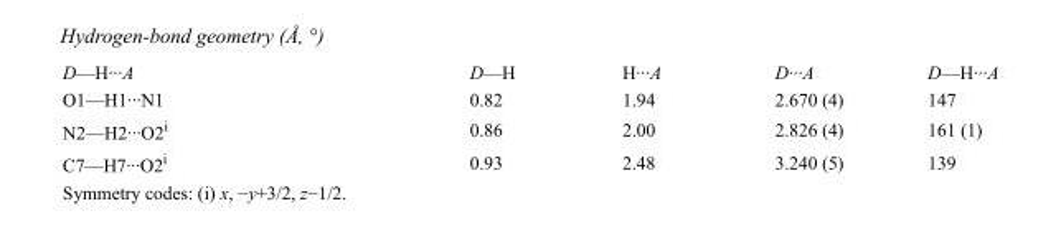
<table><tbody><tr><td>D—H···A</td><td>D—H</td><td>H···A</td><td>D···A</td><td>D—H···A</td></tr><tr><td>O1—H1···N1</td><td>0.82</td><td>1.94</td><td>2.670 (4)</td><td>147</td></tr><tr><td>N2—H2···O2<sup>i</sup></td><td>0.86</td><td>2.00</td><td>2.826 (4)</td><td>161 (1)</td></tr><tr><td>C7—H7···O2<sup>i</sup></td><td>0.93</td><td>2.48</td><td>3.240 (5)</td><td>139</td></tr></tbody></table>